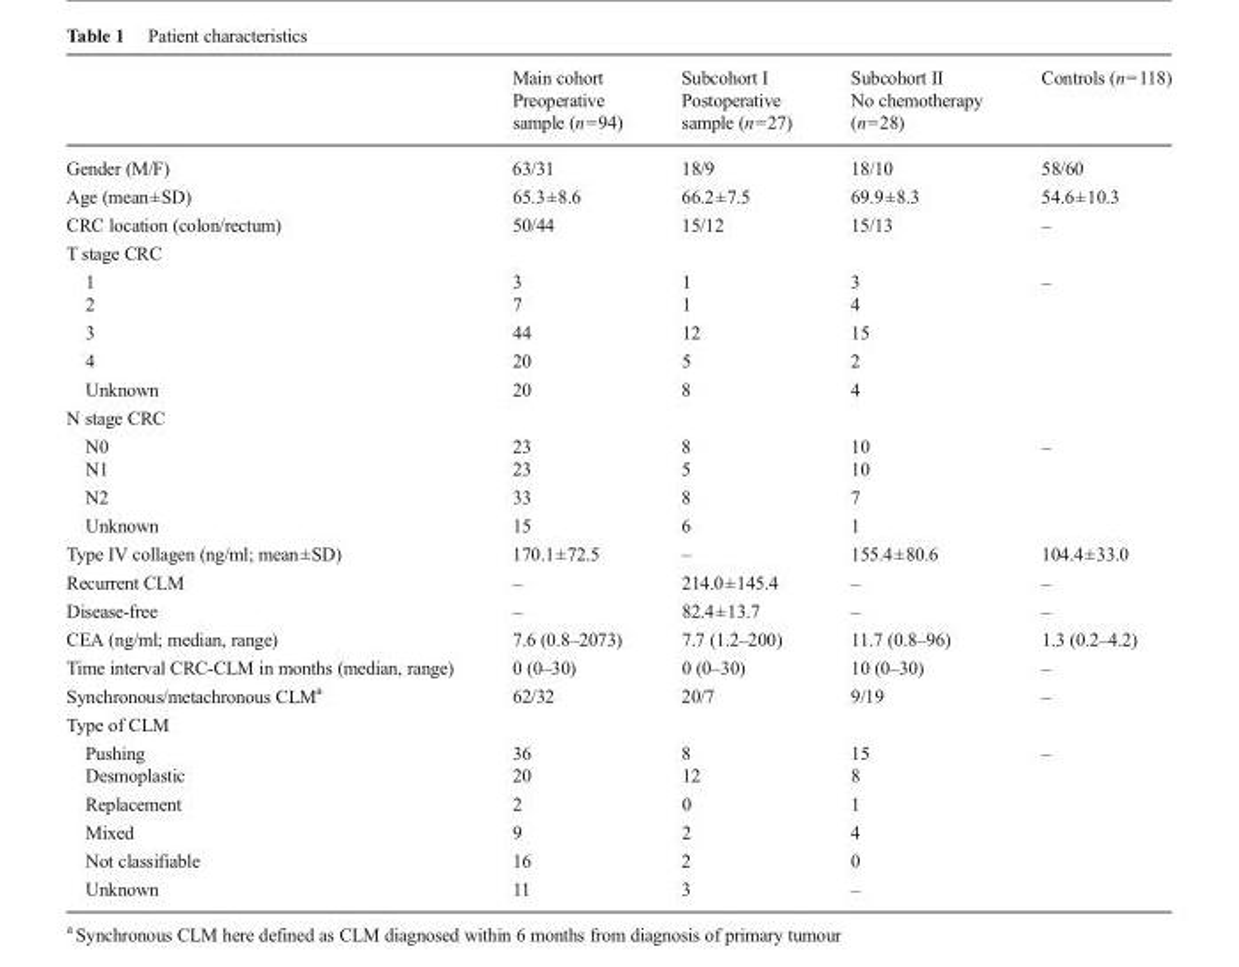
<table><thead><tr><td rowspan="2"></td><td rowspan="2">Main cohort Preoperative sample (n=94)</td><td rowspan="2">Subcohort I Postoperative sample (n=27)</td><td rowspan="2">Subcohort II No chemotherapy (n=28)</td><td rowspan="2">Controls (n=118)</td></tr><tr></tr></thead><tbody><tr><td>Gender (M/F)</td><td>63/31</td><td>18/9</td><td>18/10</td><td>58/60</td></tr><tr><td>Age (mean±SD)</td><td>65.3±8.6</td><td>66.2±7.5</td><td>69.9±8.3</td><td>54.6±10.3</td></tr><tr><td>CRC location (colon/rectum)</td><td>50/44</td><td>15/12</td><td>15/13</td><td>–</td></tr><tr><td colspan="5">T stage CRC</td></tr><tr><td>1</td><td>3</td><td>1</td><td>3</td><td rowspan="5">–</td></tr><tr><td>2</td><td>7</td><td>1</td><td>4</td></tr><tr><td>3</td><td>44</td><td>12</td><td>15</td></tr><tr><td>4</td><td>20</td><td>5</td><td>2</td></tr><tr><td>Unknown</td><td>20</td><td>8</td><td>4</td></tr><tr><td colspan="5">N stage CRC</td></tr><tr><td>N0</td><td>23</td><td>8</td><td>10</td><td rowspan="4">–</td></tr><tr><td>N1</td><td>23</td><td>5</td><td>10</td></tr><tr><td>N2</td><td>33</td><td>8</td><td>7</td></tr><tr><td>Unknown</td><td>15</td><td>6</td><td>1</td></tr><tr><td>Type IV collagen (ng/ml; mean±SD)</td><td>170.1±72.5</td><td>–</td><td>155.4±80.6</td><td>104.4±33.0</td></tr><tr><td>Recurrent CLM</td><td>–</td><td>214.0±145.4</td><td>–</td><td>–</td></tr><tr><td>Disease-free</td><td>–</td><td>82.4±13.7</td><td>–</td><td>–</td></tr><tr><td>CEA (ng/ml; median, range)</td><td>7.6 (0.8–2073)</td><td>7.7 (1.2–200)</td><td>11.7 (0.8–96)</td><td>1.3 (0.2–4.2)</td></tr><tr><td>Time interval CRC-CLM in months (median, range)</td><td>0 (0–30)</td><td>0 (0–30)</td><td>10 (0–30)</td><td>–</td></tr><tr><td>Synchronous/metachronous CLM<sup>a</sup></td><td>62/32</td><td>20/7</td><td>9/19</td><td>–</td></tr><tr><td colspan="5">Type of CLM</td></tr><tr><td>Pushing</td><td>36</td><td>8</td><td>15</td><td rowspan="6">–</td></tr><tr><td>Desmoplastic</td><td>20</td><td>12</td><td>8</td></tr><tr><td>Replacement</td><td>2</td><td>0</td><td>1</td></tr><tr><td>Mixed</td><td>9</td><td>2</td><td>4</td></tr><tr><td>Not classifiable</td><td>16</td><td>2</td><td>0</td></tr><tr><td>Unknown</td><td>11</td><td>3</td><td>–</td></tr></tbody></table>